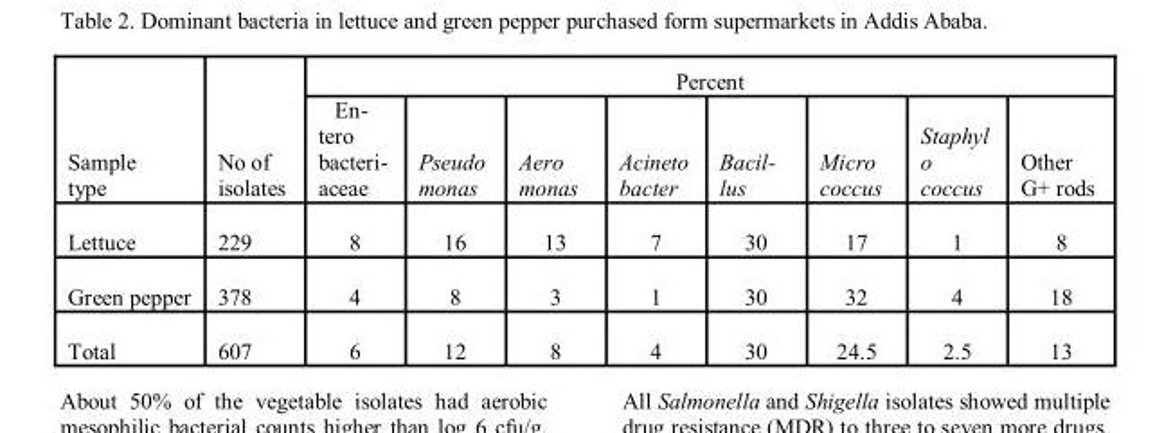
<table><thead><tr><td rowspan="2">Sample type</td><td rowspan="2">No of isolates</td><td colspan="8">Percent</td></tr><tr><td>En- tero bacteri- aceae</td><td>Pseudo monas</td><td>Aero monas</td><td>Acineto bacter</td><td>Bacil- lus</td><td>Micro coccus</td><td>Staphyl o coccus</td><td>Other G+ rods</td></tr></thead><tbody><tr><td>Lettuce</td><td>229</td><td>8</td><td>16</td><td>13</td><td>7</td><td>30</td><td>17</td><td>1</td><td>8</td></tr><tr><td>Green pepper</td><td>378</td><td>4</td><td>8</td><td>3</td><td>1</td><td>30</td><td>32</td><td>4</td><td>18</td></tr><tr><td>Total</td><td>607</td><td>6</td><td>12</td><td>8</td><td>4</td><td>30</td><td>24.5</td><td>2.5</td><td>13</td></tr></tbody></table>